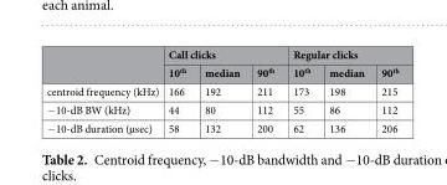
<table><thead><tr><td rowspan="2"></td><td colspan="3">Call clicks</td><td colspan="3">Regular clicks</td></tr><tr><td>10<sup>th</sup></td><td>median</td><td>90<sup>th</sup></td><td>10<sup>th</sup></td><td>median</td><td>90<sup>th</sup></td></tr></thead><tbody><tr><td>centroid frequency (kHz)</td><td>166</td><td>192</td><td>211</td><td>173</td><td>198</td><td>215</td></tr><tr><td>−10-dB BW (kHz)</td><td>44</td><td>80</td><td>112</td><td>55</td><td>86</td><td>112</td></tr><tr><td>−10-dB duration (µsec)</td><td>58</td><td>132</td><td>200</td><td>62</td><td>136</td><td>206</td></tr></tbody></table>